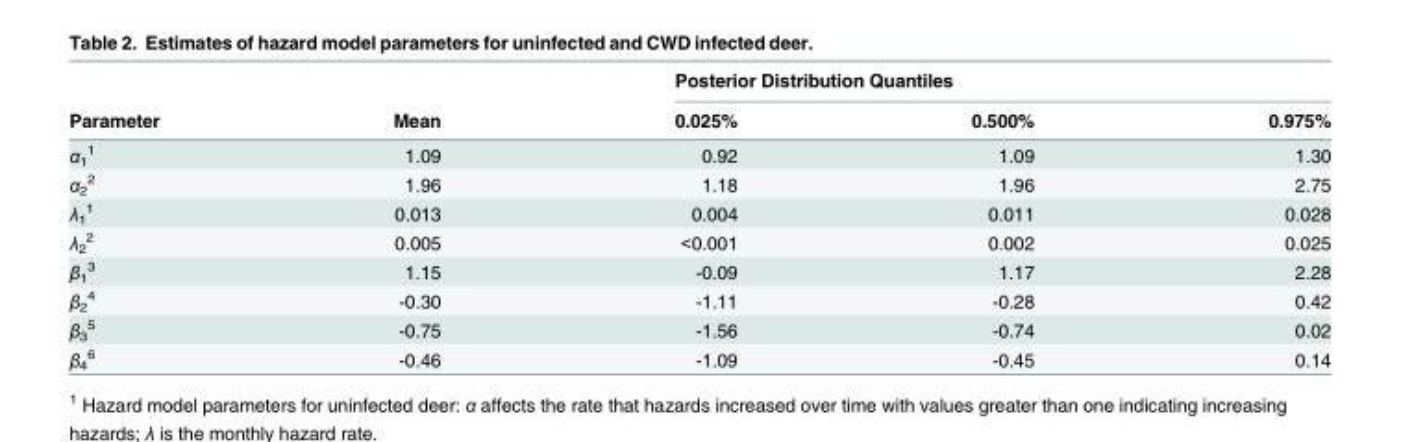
<table><thead><tr><td rowspan="2">Parameter</td><td rowspan="2">Mean</td><td colspan="3">Posterior Distribution Quantiles</td></tr><tr><td>0.025%</td><td>0.500%</td><td>0.975%</td></tr></thead><tbody><tr><td>α<sub>1</sub> <sup>1</sup></td><td>1.09</td><td>0.92</td><td>1.09</td><td>1.30</td></tr><tr><td>α<sub>2</sub> <sup>2</sup></td><td>1.96</td><td>1.18</td><td>1.96</td><td>2.75</td></tr><tr><td>λ<sub>1</sub> <sup>1</sup></td><td>0.013</td><td>0.004</td><td>0.011</td><td>0.028</td></tr><tr><td>λ<sub>2</sub> <sup>2</sup></td><td>0.005</td><td>&lt;0.001</td><td>0.002</td><td>0.025</td></tr><tr><td>β<sub>1</sub> <sup>3</sup></td><td>1.15</td><td>-0.09</td><td>1.17</td><td>2.28</td></tr><tr><td>β<sub>2</sub> <sup>4</sup></td><td>-0.30</td><td>-1.11</td><td>-0.28</td><td>0.42</td></tr><tr><td>β<sub>3</sub> <sup>5</sup></td><td>-0.75</td><td>-1.56</td><td>-0.74</td><td>0.02</td></tr><tr><td>β<sub>4</sub> <sup>6</sup></td><td>-0.46</td><td>-1.09</td><td>-0.45</td><td>0.14</td></tr></tbody></table>